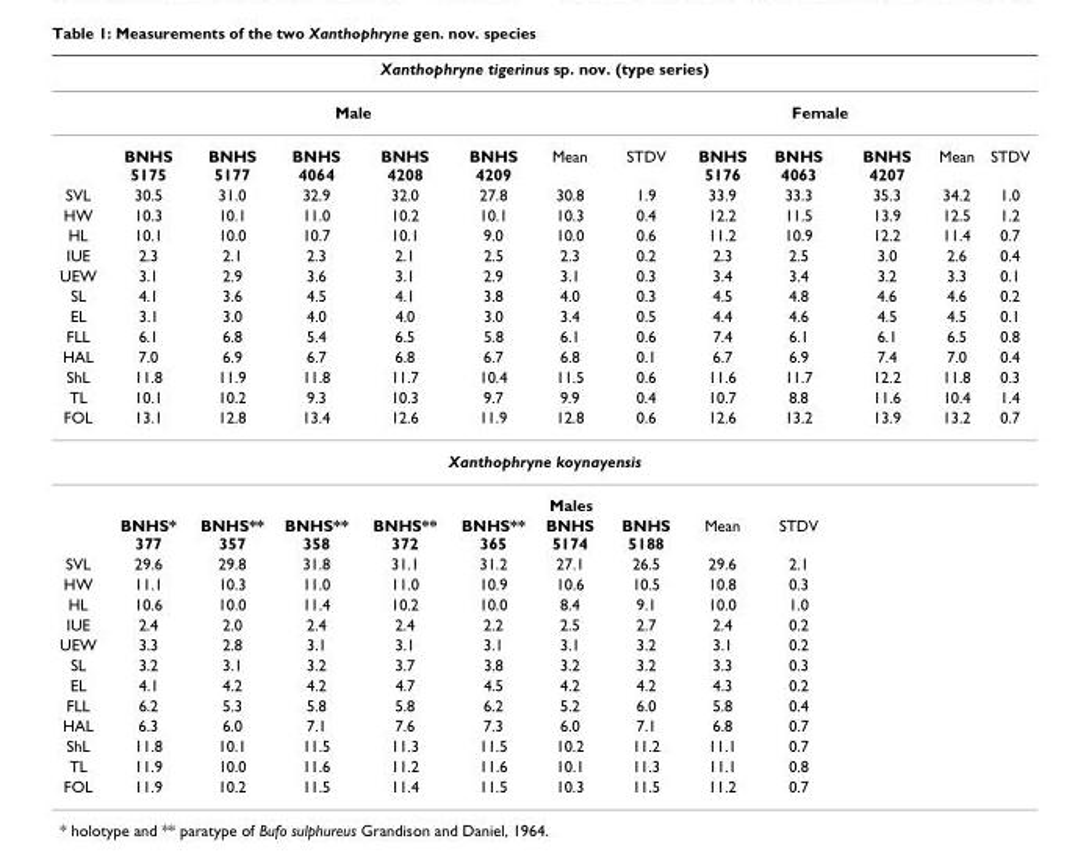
<table><thead><tr><td colspan="13">Xanthophryne tigerinus sp. nov. (type series)</td></tr><tr><td rowspan="2"></td><td colspan="6">Male</td><td colspan="6">Female</td></tr><tr><td>BNHS 5175</td><td>BNHS 5177</td><td>BNHS 4064</td><td>BNHS 4208</td><td>BNHS 4209</td><td>Mean</td><td>STDV</td><td>BNHS 5176</td><td>BNHS 4063</td><td>BNHS 4207</td><td>Mean</td><td>STDV</td></tr></thead><tbody><tr><td>SVL</td><td>30.5</td><td>31.0</td><td>32.9</td><td>32.0</td><td>27.8</td><td>30.8</td><td>1.9</td><td>33.9</td><td>33.3</td><td>35.3</td><td>34.2</td><td>1.0</td></tr><tr><td>HW</td><td>10.3</td><td>10.1</td><td>11.0</td><td>10.2</td><td>10.1</td><td>10.3</td><td>0.4</td><td>12.2</td><td>11.5</td><td>13.9</td><td>12.5</td><td>1.2</td></tr><tr><td>HL</td><td>10.1</td><td>10.0</td><td>10.7</td><td>10.1</td><td>9.0</td><td>10.0</td><td>0.6</td><td>11.2</td><td>10.9</td><td>12.2</td><td>11.4</td><td>0.7</td></tr><tr><td>IUE</td><td>2.3</td><td>2.1</td><td>2.3</td><td>2.1</td><td>2.5</td><td>2.3</td><td>0.2</td><td>2.3</td><td>2.5</td><td>3.0</td><td>2.6</td><td>0.4</td></tr><tr><td>UEW</td><td>3.1</td><td>2.9</td><td>3.6</td><td>3.1</td><td>2.9</td><td>3.1</td><td>0.3</td><td>3.4</td><td>3.4</td><td>3.2</td><td>3.3</td><td>0.1</td></tr><tr><td>SL</td><td>4.1</td><td>3.6</td><td>4.5</td><td>4.1</td><td>3.8</td><td>4.0</td><td>0.3</td><td>4.5</td><td>4.8</td><td>4.6</td><td>4.6</td><td>0.2</td></tr><tr><td>EL</td><td>3.1</td><td>3.0</td><td>4.0</td><td>4.0</td><td>3.0</td><td>3.4</td><td>0.5</td><td>4.4</td><td>4.6</td><td>4.5</td><td>4.5</td><td>0.1</td></tr><tr><td>FLL</td><td>6.1</td><td>6.8</td><td>5.4</td><td>6.5</td><td>5.8</td><td>6.1</td><td>0.6</td><td>7.4</td><td>6.1</td><td>6.1</td><td>6.5</td><td>0.8</td></tr><tr><td>HAL</td><td>7.0</td><td>6.9</td><td>6.7</td><td>6.8</td><td>6.7</td><td>6.8</td><td>0.1</td><td>6.7</td><td>6.9</td><td>7.4</td><td>7.0</td><td>0.4</td></tr><tr><td>ShL</td><td>11.8</td><td>11.9</td><td>11.8</td><td>11.7</td><td>10.4</td><td>11.5</td><td>0.6</td><td>11.6</td><td>11.7</td><td>12.2</td><td>11.8</td><td>0.3</td></tr><tr><td>TL</td><td>10.1</td><td>10.2</td><td>9.3</td><td>10.3</td><td>9.7</td><td>9.9</td><td>0.4</td><td>10.7</td><td>8.8</td><td>11.6</td><td>10.4</td><td>1.4</td></tr><tr><td>FOL</td><td>13.1</td><td>12.8</td><td>13.4</td><td>12.6</td><td>11.9</td><td>12.8</td><td>0.6</td><td>12.6</td><td>13.2</td><td>13.9</td><td>13.2</td><td>0.7</td></tr><tr><td colspan="13">Xanthophryne koynayensis</td></tr><tr><td></td><td colspan="12">Males</td></tr><tr><td></td><td>BNHS* 377</td><td>BNHS** 357</td><td>BNHS** 358</td><td>BNHS** 372</td><td>BNHS** 365</td><td>BNHS 5174</td><td>BNHS 5188</td><td>Mean</td><td>STDV</td><td></td><td></td><td></td></tr><tr><td>SVL</td><td>29.6</td><td>29.8</td><td>31.8</td><td>31.1</td><td>31.2</td><td>27.1</td><td>26.5</td><td>29.6</td><td>2.1</td><td></td><td></td><td></td></tr><tr><td>HW</td><td>11.1</td><td>10.3</td><td>11.0</td><td>11.0</td><td>10.9</td><td>10.6</td><td>10.5</td><td>10.8</td><td>0.3</td><td></td><td></td><td></td></tr><tr><td>HL</td><td>10.6</td><td>10.0</td><td>11.4</td><td>10.2</td><td>10.0</td><td>8.4</td><td>9.1</td><td>10.0</td><td>1.0</td><td></td><td></td><td></td></tr><tr><td>IUE</td><td>2.4</td><td>2.0</td><td>2.4</td><td>2.4</td><td>2.2</td><td>2.5</td><td>2.7</td><td>2.4</td><td>0.2</td><td></td><td></td><td></td></tr><tr><td>UEW</td><td>3.3</td><td>2.8</td><td>3.1</td><td>3.1</td><td>3.1</td><td>3.1</td><td>3.2</td><td>3.1</td><td>0.2</td><td></td><td></td><td></td></tr><tr><td>SL</td><td>3.2</td><td>3.1</td><td>3.2</td><td>3.7</td><td>3.8</td><td>3.2</td><td>3.2</td><td>3.3</td><td>0.3</td><td></td><td></td><td></td></tr><tr><td>EL</td><td>4.1</td><td>4.2</td><td>4.2</td><td>4.7</td><td>4.5</td><td>4.2</td><td>4.2</td><td>4.3</td><td>0.2</td><td></td><td></td><td></td></tr><tr><td>FLL</td><td>6.2</td><td>5.3</td><td>5.8</td><td>5.8</td><td>6.2</td><td>5.2</td><td>6.0</td><td>5.8</td><td>0.4</td><td></td><td></td><td></td></tr><tr><td>HAL</td><td>6.3</td><td>6.0</td><td>7.1</td><td>7.6</td><td>7.3</td><td>6.0</td><td>7.1</td><td>6.8</td><td>0.7</td><td></td><td></td><td></td></tr><tr><td>ShL</td><td>11.8</td><td>10.1</td><td>11.5</td><td>11.3</td><td>11.5</td><td>10.2</td><td>11.2</td><td>11.1</td><td>0.7</td><td></td><td></td><td></td></tr><tr><td>TL</td><td>11.9</td><td>10.0</td><td>11.6</td><td>11.2</td><td>11.6</td><td>10.1</td><td>11.3</td><td>11.1</td><td>0.8</td><td></td><td></td><td></td></tr><tr><td>FOL</td><td>11.9</td><td>10.2</td><td>11.5</td><td>11.4</td><td>11.5</td><td>10.3</td><td>11.5</td><td>11.2</td><td>0.7</td><td></td><td></td><td></td></tr></tbody></table>